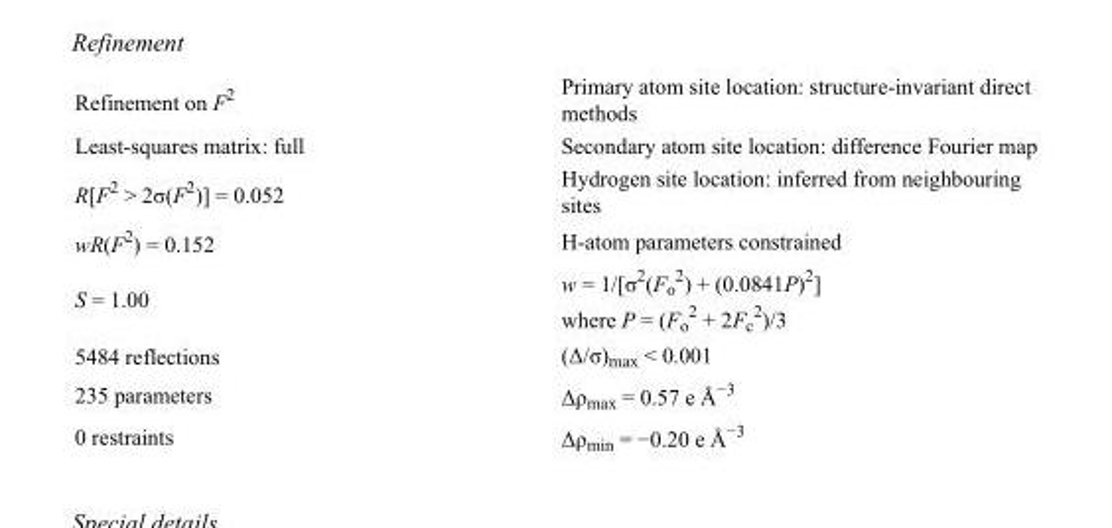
<table><tbody><tr><td>Refinement on F<sup>2</sup></td><td>Primary atom site location: structure-invariant direct methods</td></tr><tr><td>Least-squares matrix: full</td><td>Secondary atom site location: difference Fourier map</td></tr><tr><td>R[F<sup>2</sup> &gt; 2σ(F<sup>2</sup>)] = 0.052</td><td>Hydrogen site location: inferred from neighbouring sites</td></tr><tr><td>wR(F<sup>2</sup>) = 0.152</td><td>H-atom parameters constrained</td></tr><tr><td>S = 1.00</td><td>w = 1/[σ<sup>2</sup>(F<sub>o</sub> <sup>2</sup>) + (0.0841P)<sup>2</sup>] where P = (F<sub>o</sub> <sup>2</sup> + 2F<sub>c</sub> <sup>2</sup>)/3</td></tr><tr><td>5484 reflections</td><td>(Δ/σ)<sub>max</sub> &lt; 0.001</td></tr><tr><td>235 parameters</td><td>Δρ<sub>max</sub> = 0.57 e Å<sup>−3</sup></td></tr><tr><td>0 restraints</td><td>Δρ<sub>min</sub> = −0.20 e Å<sup>−3</sup></td></tr></tbody></table>